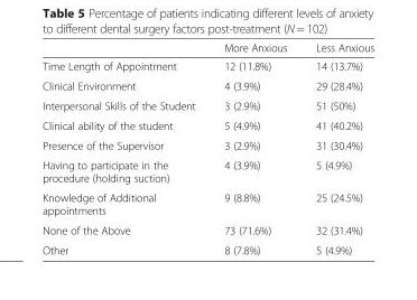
<table><thead><tr><td></td><td>More Anxious</td><td>Less Anxious</td></tr></thead><tbody><tr><td>Time Length of Appointment</td><td>12 (11.8%)</td><td>14 (13.7%)</td></tr><tr><td>Clinical Environment</td><td>4 (3.9%)</td><td>29 (28.4%)</td></tr><tr><td>Interpersonal Skills of the Student</td><td>3 (2.9%)</td><td>51 (50%)</td></tr><tr><td>Clinical ability of the student</td><td>5 (4.9%)</td><td>41 (40.2%)</td></tr><tr><td>Presence of the Supervisor</td><td>3 (2.9%)</td><td>31 (30.4%)</td></tr><tr><td>Having to participate in the procedure (holding suction)</td><td>4 (3.9%)</td><td>5 (4.9%)</td></tr><tr><td>Knowledge of Additional appointments</td><td>9 (8.8%)</td><td>25 (24.5%)</td></tr><tr><td>None of the Above</td><td>73 (71.6%)</td><td>32 (31.4%)</td></tr><tr><td>Other</td><td>8 (7.8%)</td><td>5 (4.9%)</td></tr></tbody></table>